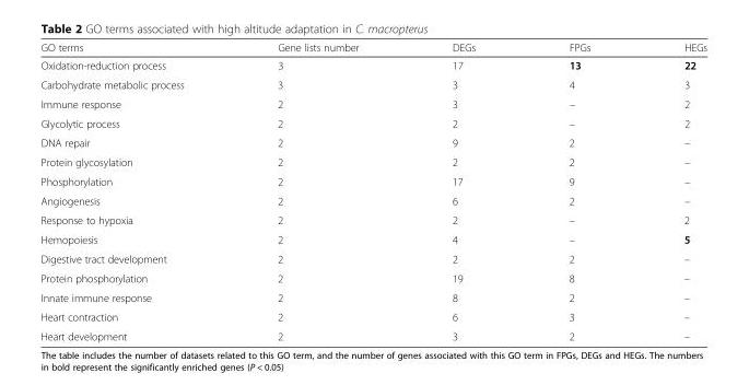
<table><thead><tr><td>GO terms</td><td>Gene lists number</td><td>DEGs</td><td>FPGs</td><td>HEGs</td></tr></thead><tbody><tr><td>Oxidation-reduction process</td><td>3</td><td>17</td><td>13</td><td>22</td></tr><tr><td>Carbohydrate metabolic process</td><td>3</td><td>3</td><td>4</td><td>3</td></tr><tr><td>Immune response</td><td>2</td><td>3</td><td>–</td><td>2</td></tr><tr><td>Glycolytic process</td><td>2</td><td>2</td><td>–</td><td>2</td></tr><tr><td>DNA repair</td><td>2</td><td>9</td><td>2</td><td>–</td></tr><tr><td>Protein glycosylation</td><td>2</td><td>2</td><td>2</td><td>–</td></tr><tr><td>Phosphorylation</td><td>2</td><td>17</td><td>9</td><td>–</td></tr><tr><td>Angiogenesis</td><td>2</td><td>6</td><td>2</td><td>–</td></tr><tr><td>Response to hypoxia</td><td>2</td><td>2</td><td>–</td><td>2</td></tr><tr><td>Hemopoiesis</td><td>2</td><td>4</td><td>–</td><td>5</td></tr><tr><td>Digestive tract development</td><td>2</td><td>2</td><td>2</td><td>–</td></tr><tr><td>Protein phosphorylation</td><td>2</td><td>19</td><td>8</td><td>–</td></tr><tr><td>Innate immune response</td><td>2</td><td>8</td><td>2</td><td>–</td></tr><tr><td>Heart contraction</td><td>2</td><td>6</td><td>3</td><td>–</td></tr><tr><td>Heart development</td><td>2</td><td>3</td><td>2</td><td>–</td></tr></tbody></table>